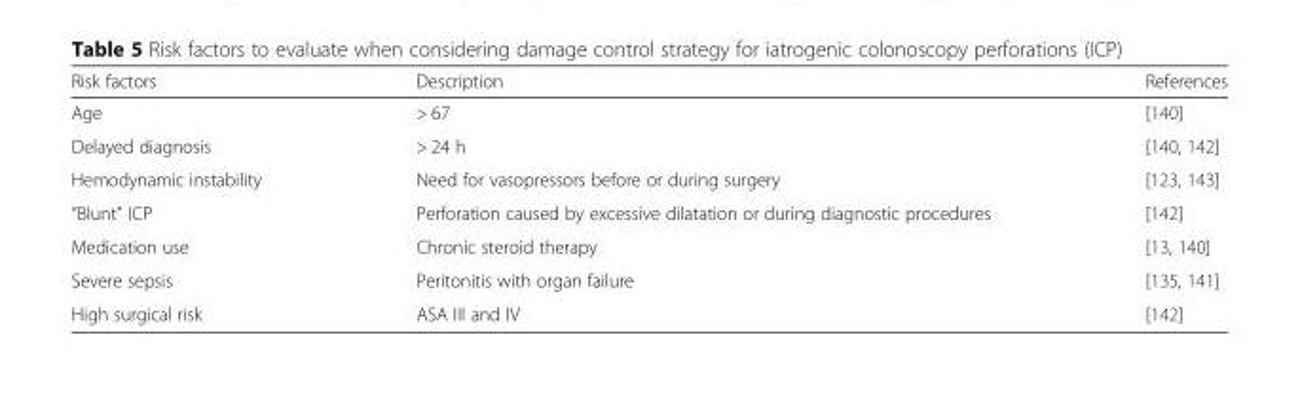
<table><thead><tr><td>Risk factors</td><td>Description</td><td>References</td></tr></thead><tbody><tr><td>Age</td><td>&gt; 67</td><td>[140]</td></tr><tr><td>Delayed diagnosis</td><td>&gt; 24 h</td><td>[140, 142]</td></tr><tr><td>Hemodynamic instability</td><td>Need for vasopressors before or during surgery</td><td>[123, 143]</td></tr><tr><td>“Blunt” ICP</td><td>Perforation caused by excessive dilatation or during diagnostic procedures</td><td>[142]</td></tr><tr><td>Medication use</td><td>Chronic steroid therapy</td><td>[13, 140]</td></tr><tr><td>Severe sepsis</td><td>Peritonitis with organ failure</td><td>[135, 141]</td></tr><tr><td>High surgical risk</td><td>ASA III and IV</td><td>[142]</td></tr></tbody></table>